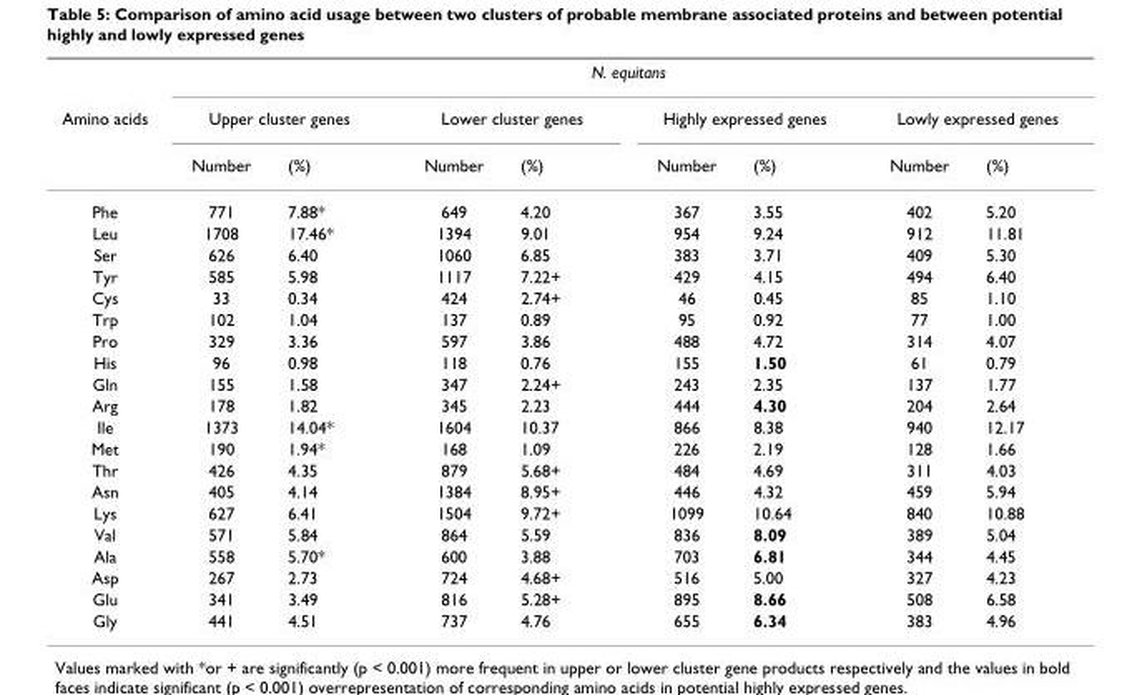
<table><thead><tr><td rowspan="3">Amino acids</td><td colspan="8">N. equitans</td></tr><tr><td colspan="2">Upper cluster genes</td><td colspan="2">Lower cluster genes</td><td colspan="2">Highly expressed genes</td><td colspan="2">Lowly expressed genes</td></tr><tr><td>Number</td><td>(%)</td><td>Number</td><td>(%)</td><td>Number</td><td>(%)</td><td>Number</td><td>(%)</td></tr></thead><tbody><tr><td>Phe</td><td>771</td><td>7.88*</td><td>649</td><td>4.20</td><td>367</td><td>3.55</td><td>402</td><td>5.20</td></tr><tr><td>Leu</td><td>1708</td><td>17.46*</td><td>1394</td><td>9.01</td><td>954</td><td>9.24</td><td>912</td><td>11.81</td></tr><tr><td>Ser</td><td>626</td><td>6.40</td><td>1060</td><td>6.85</td><td>383</td><td>3.71</td><td>409</td><td>5.30</td></tr><tr><td>Tyr</td><td>585</td><td>5.98</td><td>1117</td><td>7.22+</td><td>429</td><td>4.15</td><td>494</td><td>6.40</td></tr><tr><td>Cys</td><td>33</td><td>0.34</td><td>424</td><td>2.74+</td><td>46</td><td>0.45</td><td>85</td><td>1.10</td></tr><tr><td>Trp</td><td>102</td><td>1.04</td><td>137</td><td>0.89</td><td>95</td><td>0.92</td><td>77</td><td>1.00</td></tr><tr><td>Pro</td><td>329</td><td>3.36</td><td>597</td><td>3.86</td><td>488</td><td>4.72</td><td>314</td><td>4.07</td></tr><tr><td>His</td><td>96</td><td>0.98</td><td>118</td><td>0.76</td><td>155</td><td>1.50</td><td>61</td><td>0.79</td></tr><tr><td>Gln</td><td>155</td><td>1.58</td><td>347</td><td>2.24+</td><td>243</td><td>2.35</td><td>137</td><td>1.77</td></tr><tr><td>Arg</td><td>178</td><td>1.82</td><td>345</td><td>2.23</td><td>444</td><td>4.30</td><td>204</td><td>2.64</td></tr><tr><td>Ile</td><td>1373</td><td>14.04*</td><td>1604</td><td>10.37</td><td>866</td><td>8.38</td><td>940</td><td>12.17</td></tr><tr><td>Met</td><td>190</td><td>1.94*</td><td>168</td><td>1.09</td><td>226</td><td>2.19</td><td>128</td><td>1.66</td></tr><tr><td>Thr</td><td>426</td><td>4.35</td><td>879</td><td>5.68+</td><td>484</td><td>4.69</td><td>311</td><td>4.03</td></tr><tr><td>Asn</td><td>405</td><td>4.14</td><td>1384</td><td>8.95+</td><td>446</td><td>4.32</td><td>459</td><td>5.94</td></tr><tr><td>Lys</td><td>627</td><td>6.41</td><td>1504</td><td>9.72+</td><td>1099</td><td>10.64</td><td>840</td><td>10.88</td></tr><tr><td>Val</td><td>571</td><td>5.84</td><td>864</td><td>5.59</td><td>836</td><td>8.09</td><td>389</td><td>5.04</td></tr><tr><td>Ala</td><td>558</td><td>5.70*</td><td>600</td><td>3.88</td><td>703</td><td>6.81</td><td>344</td><td>4.45</td></tr><tr><td>Asp</td><td>267</td><td>2.73</td><td>724</td><td>4.68+</td><td>516</td><td>5.00</td><td>327</td><td>4.23</td></tr><tr><td>Glu</td><td>341</td><td>3.49</td><td>816</td><td>5.28+</td><td>895</td><td>8.66</td><td>508</td><td>6.58</td></tr><tr><td>Gly</td><td>441</td><td>4.51</td><td>737</td><td>4.76</td><td>655</td><td>6.34</td><td>383</td><td>4.96</td></tr></tbody></table>